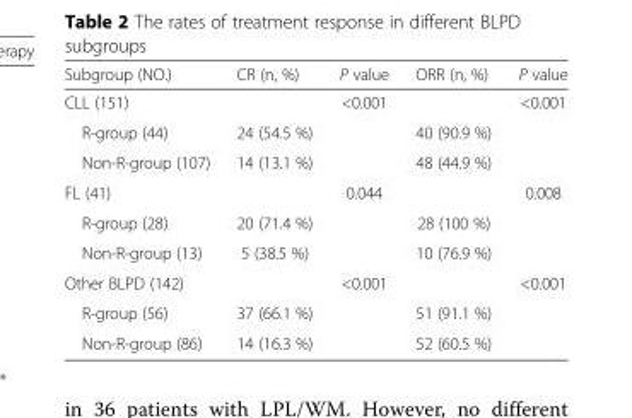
<table><thead><tr><td>Subgroup (NO.)</td><td>CR (n, %)</td><td>P value</td><td>ORR (n, %)</td><td>P value</td></tr></thead><tbody><tr><td>CLL (151)</td><td></td><td>&lt;0.001</td><td></td><td>&lt;0.001</td></tr><tr><td>R-group (44)</td><td>24 (54.5 %)</td><td></td><td>40 (90.9 %)</td><td></td></tr><tr><td>Non-R-group (107)</td><td>14 (13.1 %)</td><td></td><td>48 (44.9 %)</td><td></td></tr><tr><td>FL (41)</td><td></td><td>0.044</td><td></td><td>0.008</td></tr><tr><td>R-group (28)</td><td>20 (71.4 %)</td><td></td><td>28 (100 %)</td><td></td></tr><tr><td>Non-R-group (13)</td><td>5 (38.5 %)</td><td></td><td>10 (76.9 %)</td><td></td></tr><tr><td>Other BLPD (142)</td><td></td><td>&lt;0.001</td><td></td><td>&lt;0.001</td></tr><tr><td>R-group (56)</td><td>37 (66.1 %)</td><td></td><td>51 (91.1 %)</td><td></td></tr><tr><td>Non-R-group (86)</td><td>14 (16.3 %)</td><td></td><td>52 (60.5 %)</td><td></td></tr></tbody></table>